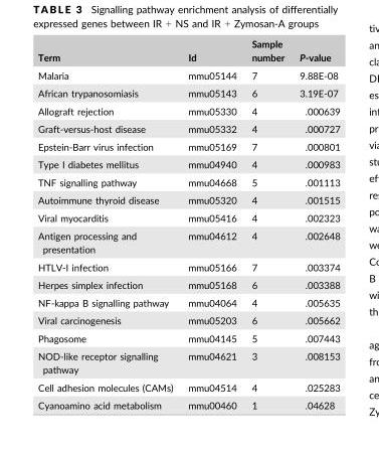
<table><thead><tr><td>Term</td><td>Id</td><td>Sample number</td><td>P-value</td></tr></thead><tbody><tr><td>Malaria</td><td>mmu05144</td><td>7</td><td>9.88E-08</td></tr><tr><td>African trypanosomiasis</td><td>mmu05143</td><td>6</td><td>3.19E-07</td></tr><tr><td>Allograft rejection</td><td>mmu05330</td><td>4</td><td>.000639</td></tr><tr><td>Graft-versus-host disease</td><td>mmu05332</td><td>4</td><td>.000727</td></tr><tr><td>Epstein-Barr virus infection</td><td>mmu05169</td><td>7</td><td>.000801</td></tr><tr><td>Type I diabetes mellitus</td><td>mmu04940</td><td>4</td><td>.000983</td></tr><tr><td>TNF signalling pathway</td><td>mmu04668</td><td>5</td><td>.001113</td></tr><tr><td>Autoimmune thyroid disease</td><td>mmu05320</td><td>4</td><td>.001515</td></tr><tr><td>Viral myocarditis</td><td>mmu05416</td><td>4</td><td>.002323</td></tr><tr><td>Antigen processing and presentation</td><td>mmu04612</td><td>4</td><td>.002648</td></tr><tr><td>HTLV-I infection</td><td>mmu05166</td><td>7</td><td>.003374</td></tr><tr><td>Herpes simplex infection</td><td>mmu05168</td><td>6</td><td>.003388</td></tr><tr><td>NF-kappa B signalling pathway</td><td>mmu04064</td><td>4</td><td>.005635</td></tr><tr><td>Viral carcinogenesis</td><td>mmu05203</td><td>6</td><td>.005662</td></tr><tr><td>Phagosome</td><td>mmu04145</td><td>5</td><td>.007443</td></tr><tr><td>NOD-like receptor signalling pathway</td><td>mmu04621</td><td>3</td><td>.008153</td></tr><tr><td>Cell adhesion molecules (CAMs)</td><td>mmu04514</td><td>4</td><td>.025283</td></tr><tr><td>Cyanoamino acid metabolism</td><td>mmu00460</td><td>1</td><td>.04628</td></tr></tbody></table>